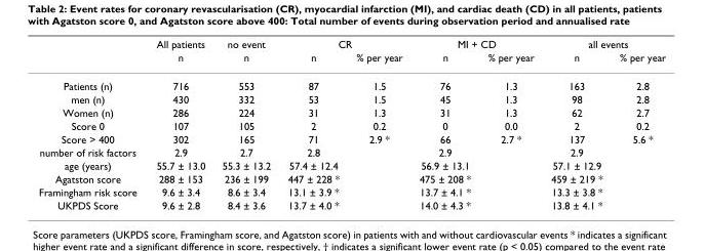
<table><thead><tr><td rowspan="2"></td><td rowspan="2">All patients n</td><td rowspan="2">no event n</td><td colspan="2">CR</td><td colspan="2">MI + CD</td><td colspan="2">all events</td></tr><tr><td>n</td><td>% per year</td><td>n</td><td>% per year</td><td>n</td><td>% per year</td></tr></thead><tbody><tr><td>Patients (n)</td><td>716</td><td>553</td><td>87</td><td>1.5</td><td>76</td><td>1.3</td><td>163</td><td>2.8</td></tr><tr><td>men (n)</td><td>430</td><td>332</td><td>53</td><td>1.5</td><td>45</td><td>1.3</td><td>98</td><td>2.8</td></tr><tr><td>Women (n)</td><td>286</td><td>224</td><td>31</td><td>1.3</td><td>31</td><td>1.3</td><td>62</td><td>2.7</td></tr><tr><td>Score 0</td><td>107</td><td>105</td><td>2</td><td>0.2</td><td>0</td><td>0.0</td><td>2</td><td>0.2</td></tr><tr><td>Score &gt; 400</td><td>302</td><td>165</td><td>71</td><td>2.9 *</td><td>66</td><td>2.7 *</td><td>137</td><td>5.6 *</td></tr><tr><td>number of risk factors</td><td>2.9</td><td>2.7</td><td>2.8</td><td></td><td>2.9</td><td></td><td>2.9</td><td></td></tr><tr><td>age (years)</td><td>55.7 ± 13.0</td><td>55.3 ± 13.2</td><td>57.4 ± 12.4</td><td></td><td>56.9 ± 13.1</td><td></td><td>57.1 ± 12.9</td><td></td></tr><tr><td>Agatston score</td><td>288 ± 153</td><td>236 ± 199</td><td>447 ± 228 *</td><td></td><td>475 ± 208 *</td><td></td><td>459 ± 219 *</td><td></td></tr><tr><td>Framingham risk score</td><td>9.6 ± 3.4</td><td>8.6 ± 3.4</td><td>13.1 ± 3.9 *</td><td></td><td>13.7 ± 4.1 *</td><td></td><td>13.3 ± 3.8 *</td><td></td></tr><tr><td>UKPDS Score</td><td>9.6 ± 2.8</td><td>8.4 ± 3.6</td><td>13.7 ± 4.0 *</td><td></td><td>14.0 ± 4.3 *</td><td></td><td>13.8 ± 4.1 *</td><td></td></tr></tbody></table>